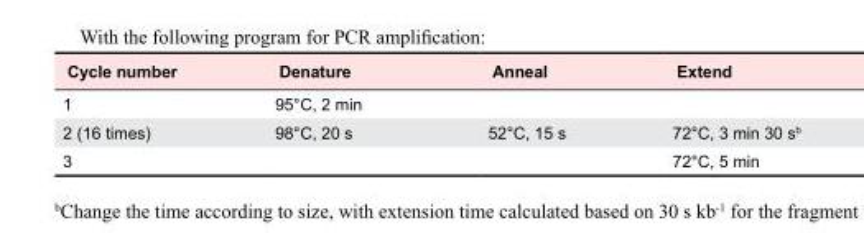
<table><tbody><tr><td>Cycle number</td><td>Denature</td><td>Anneal</td><td>Extend</td></tr><tr><td>1</td><td>95°C, 2 min</td><td></td><td></td></tr><tr><td>2 (16 times)</td><td>98°C, 20 s</td><td>52°C, 15 s</td><td>72°C, 3 min 30 s<sup>b</sup></td></tr><tr><td>3</td><td></td><td></td><td>72°C, 5 min</td></tr></tbody></table>